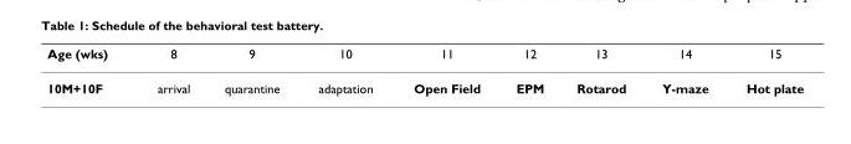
<table><thead><tr><td>Age (wks)</td><td>8</td><td>9</td><td>10</td><td>11</td><td>12</td><td>13</td><td>14</td><td>15</td></tr></thead><tbody><tr><td>10M+10F</td><td>arrival</td><td>quarantine</td><td>adaptation</td><td>Open Field</td><td>EPM</td><td>Rotarod</td><td>Y-maze</td><td>Hot plate</td></tr></tbody></table>